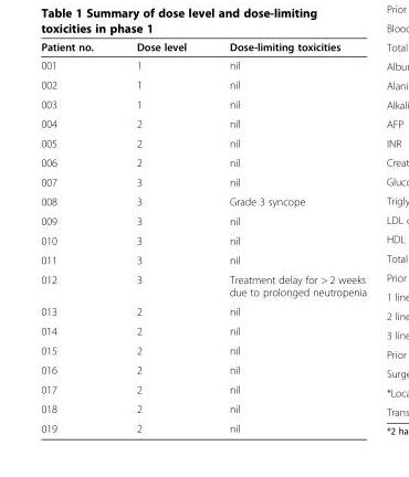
<table><thead><tr><td>Patient no.</td><td>Dose level</td><td>Dose-limiting toxicities</td></tr></thead><tbody><tr><td>001</td><td>1</td><td>nil</td></tr><tr><td>002</td><td>1</td><td>nil</td></tr><tr><td>003</td><td>1</td><td>nil</td></tr><tr><td>004</td><td>2</td><td>nil</td></tr><tr><td>005</td><td>2</td><td>nil</td></tr><tr><td>006</td><td>2</td><td>nil</td></tr><tr><td>007</td><td>3</td><td>nil</td></tr><tr><td>008</td><td>3</td><td>Grade 3 syncope</td></tr><tr><td>009</td><td>3</td><td>nil</td></tr><tr><td>010</td><td>3</td><td>nil</td></tr><tr><td>011</td><td>3</td><td>nil</td></tr><tr><td>012</td><td>3</td><td>Treatment delay for &gt; 2 weeks due to prolonged neutropenia</td></tr><tr><td>013</td><td>2</td><td>nil</td></tr><tr><td>014</td><td>2</td><td>nil</td></tr><tr><td>015</td><td>2</td><td>nil</td></tr><tr><td>016</td><td>2</td><td>nil</td></tr><tr><td>017</td><td>2</td><td>nil</td></tr><tr><td>018</td><td>2</td><td>nil</td></tr><tr><td>019</td><td>2</td><td>nil</td></tr></tbody></table>